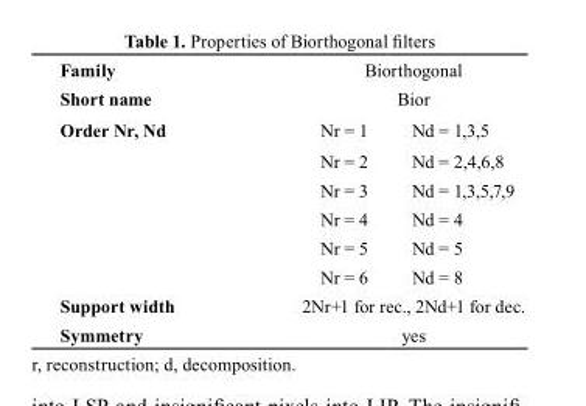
<table><tbody><tr><td>Family</td><td colspan="2">Biorthogonal</td></tr><tr><td>short name</td><td colspan="2">Bior</td></tr><tr><td rowspan="6">order Nr, Nd</td><td>Nr = 1</td><td>Nd = 1,3,5</td></tr><tr><td>Nr = 2</td><td>Nd = 2,4,6,8</td></tr><tr><td>Nr = 3</td><td>Nd = 1,3,5,7,9</td></tr><tr><td>Nr = 4</td><td>Nd = 4</td></tr><tr><td>Nr = 5</td><td>Nd = 5</td></tr><tr><td>Nr = 6</td><td>Nd = 8</td></tr><tr><td>support width</td><td colspan="2">2Nr+1 for rec., 2Nd+1 for dec.</td></tr><tr><td>Symmetry</td><td colspan="2">yes</td></tr></tbody></table>